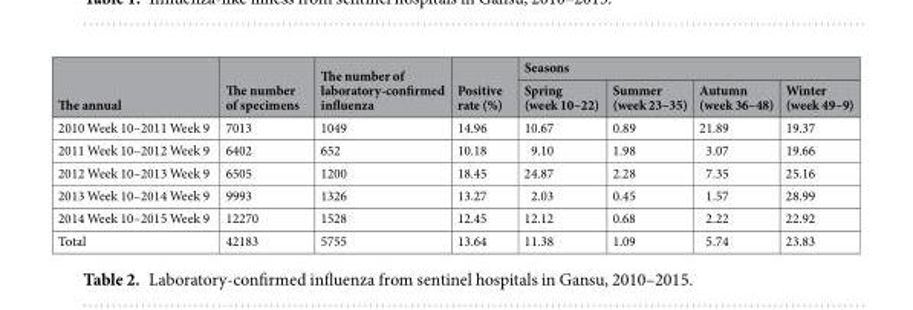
<table><thead><tr><td rowspan="2">The annual</td><td rowspan="2">The number of specimens</td><td rowspan="2">The number of laboratory-confirmed influenza</td><td rowspan="2">Positive rate (%)</td><td colspan="4">Seasons</td></tr><tr><td>Spring (week 10–22)</td><td>Summer (week 23–35)</td><td>Autumn (week 36–48)</td><td>Winter (week 49–9)</td></tr></thead><tbody><tr><td>2010 Week 10–2011 Week 9</td><td>7013</td><td>1049</td><td>14.96</td><td>10.67</td><td>0.89</td><td>21.89</td><td>19.37</td></tr><tr><td>2011 Week 10–2012 Week 9</td><td>6402</td><td>652</td><td>10.18</td><td>9.10</td><td>1.98</td><td>3.07</td><td>19.66</td></tr><tr><td>2012 Week 10–2013 Week 9</td><td>6505</td><td>1200</td><td>18.45</td><td>24.87</td><td>2.28</td><td>7.35</td><td>25.16</td></tr><tr><td>2013 Week 10–2014 Week 9</td><td>9993</td><td>1326</td><td>13.27</td><td>2.03</td><td>0.45</td><td>1.57</td><td>28.99</td></tr><tr><td>2014 Week 10–2015 Week 9</td><td>12270</td><td>1528</td><td>12.45</td><td>12.12</td><td>0.68</td><td>2.22</td><td>22.92</td></tr><tr><td>Total</td><td>42183</td><td>5755</td><td>13.64</td><td>11.38</td><td>1.09</td><td>5.74</td><td>23.83</td></tr></tbody></table>